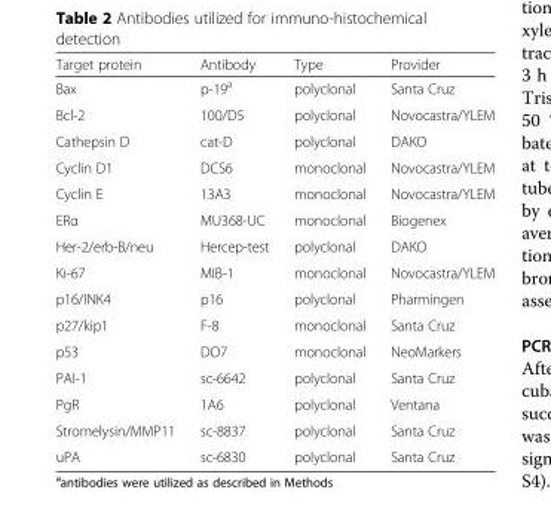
<table><thead><tr><td>Target protein</td><td>Antibody</td><td>Type</td><td>Provider</td></tr></thead><tbody><tr><td>Bax</td><td>p-19<sup>a</sup></td><td>polyclonal</td><td>Santa Cruz</td></tr><tr><td>Bcl-2</td><td>100/D5</td><td>polyclonal</td><td>Novocastra/YLEM</td></tr><tr><td>Cathepsin D</td><td>cat-D</td><td>polyclonal</td><td>DAKO</td></tr><tr><td>Cyclin D1</td><td>DCS6</td><td>monoclonal</td><td>Novocastra/YLEM</td></tr><tr><td>Cyclin E</td><td>13A3</td><td>monoclonal</td><td>Novocastra/YLEM</td></tr><tr><td>ERα</td><td>MU368-UC</td><td>monoclonal</td><td>Biogenex</td></tr><tr><td>Her-2/erb-B/neu</td><td>Hercep-test</td><td>polyclonal</td><td>DAKO</td></tr><tr><td>Ki-67</td><td>MIB-1</td><td>monoclonal</td><td>Novocastra/YLEM</td></tr><tr><td>p16/INK4</td><td>p16</td><td>polyclonal</td><td>Pharmingen</td></tr><tr><td>p27/kip1</td><td>F-8</td><td>monoclonal</td><td>Santa Cruz</td></tr><tr><td>p53</td><td>DO7</td><td>monoclonal</td><td>NeoMarkers</td></tr><tr><td>PAI-1</td><td>sc-6642</td><td>polyclonal</td><td>Santa Cruz</td></tr><tr><td>PgR</td><td>1A6</td><td>polyclonal</td><td>Ventana</td></tr><tr><td>Stromelysin/MMP11</td><td>sc-8837</td><td>polyclonal</td><td>Santa Cruz</td></tr><tr><td>uPA</td><td>sc-6830</td><td>polyclonal</td><td>Santa Cruz</td></tr></tbody></table>